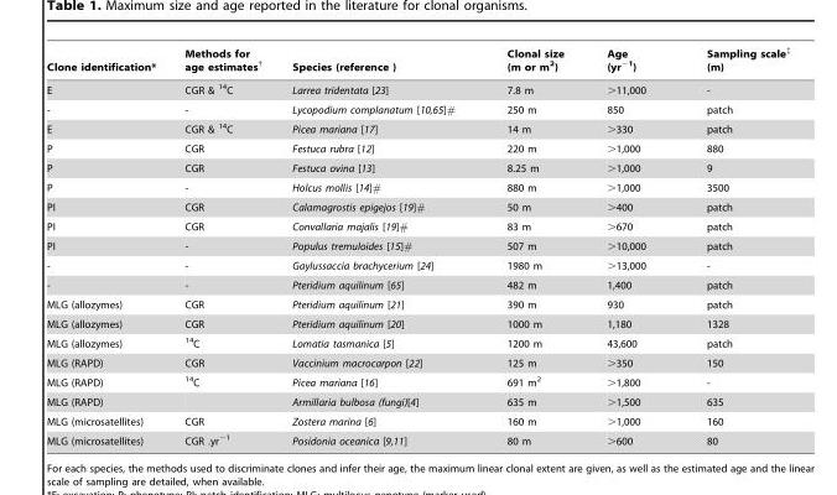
<table><thead><tr><td>Clone identification*</td><td>Methods for age estimates†</td><td>Species (reference )</td><td>Clonal size (m or m<sup>2</sup>)</td><td>Age (yr<sup>−1</sup>)</td><td>Sampling scale‡ (m)</td></tr></thead><tbody><tr><td>E</td><td>CGR &amp; <sup>14</sup>C</td><td>Larrea tridentata [23]</td><td>7.8 m</td><td>&gt;11,000</td><td>-</td></tr><tr><td>-</td><td>-</td><td>Lycopodium complanatum [10,65]#</td><td>250 m</td><td>850</td><td>patch</td></tr><tr><td>E</td><td>CGR &amp; <sup>14</sup>C</td><td>Picea mariana [17]</td><td>14 m</td><td>&gt;330</td><td>patch</td></tr><tr><td>P</td><td>CGR</td><td>Festuca rubra [12]</td><td>220 m</td><td>&gt;1,000</td><td>880</td></tr><tr><td>P</td><td>CGR</td><td>Festuca ovina [13]</td><td>8.25 m</td><td>&gt;1,000</td><td>9</td></tr><tr><td>P</td><td>-</td><td>Holcus mollis [14]#</td><td>880 m</td><td>&gt;1,000</td><td>3500</td></tr><tr><td>PI</td><td>CGR</td><td>Calamagrostis epigejos [19]#</td><td>50 m</td><td>&gt;400</td><td>patch</td></tr><tr><td>PI</td><td>CGR</td><td>Convallaria majalis [19]#</td><td>83 m</td><td>&gt;670</td><td>patch</td></tr><tr><td>PI</td><td>-</td><td>Populus tremuloides [15]#</td><td>507 m</td><td>&gt;10,000</td><td>patch</td></tr><tr><td>-</td><td>-</td><td>Gaylussaccia brachycerium [24]</td><td>1980 m</td><td>&gt;13,000</td><td>-</td></tr><tr><td>-</td><td>-</td><td>Pteridium aquilinum [65]</td><td>482 m</td><td>1,400</td><td>patch</td></tr><tr><td>MLG (allozymes)</td><td>CGR</td><td>Pteridium aquilinum [21]</td><td>390 m</td><td>930</td><td>patch</td></tr><tr><td>MLG (allozymes)</td><td>CGR</td><td>Pteridium aquilinum [20]</td><td>1000 m</td><td>1,180</td><td>1328</td></tr><tr><td>MLG (allozymes)</td><td><sup>14</sup>C</td><td>Lomatia tasmanica [5]</td><td>1200 m</td><td>43,600</td><td>patch</td></tr><tr><td>MLG (RAPD)</td><td>CGR</td><td>Vaccinium macrocarpon [22]</td><td>125 m</td><td>&gt;350</td><td>150</td></tr><tr><td>MLG (RAPD)</td><td><sup>14</sup>C</td><td>Picea mariana [16]</td><td>691 m<sup>2</sup></td><td>&gt;1,800</td><td>-</td></tr><tr><td>MLG (RAPD)</td><td></td><td>Armillaria bulbosa (fungi)[4]</td><td>635 m</td><td>&gt;1,500</td><td>635</td></tr><tr><td>MLG (microsatellites)</td><td>CGR</td><td>Zostera marina [6]</td><td>160 m</td><td>&gt;1,000</td><td>160</td></tr><tr><td>MLG (microsatellites)</td><td>CGR .yr<sup>−1</sup></td><td>Posidonia oceanica [9,11]</td><td>80 m</td><td>&gt;600</td><td>80</td></tr></tbody></table>